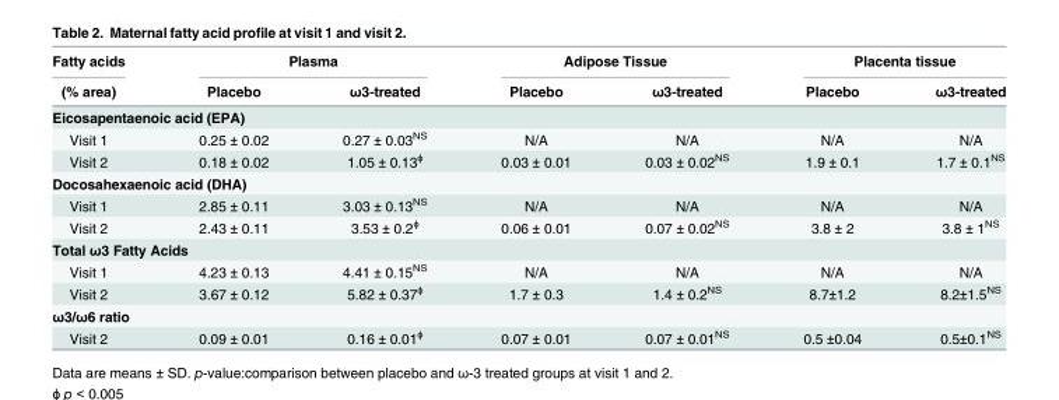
<table><thead><tr><td rowspan="2">Fatty acids (% area)</td><td colspan="2">Plasma</td><td colspan="2">Adipose Tissue</td><td colspan="2">Placenta tissue</td></tr><tr><td>Placebo</td><td>ω3-treated</td><td>Placebo</td><td>ω3-treated</td><td>Placebo</td><td>ω3-treated</td></tr></thead><tbody><tr><td colspan="7">Eicosapentaenoic acid (EPA)</td></tr><tr><td>Visit 1</td><td>0.25 ± 0.02</td><td>0.27 ± 0.03<sup>NS</sup></td><td>N/A</td><td>N/A</td><td>N/A</td><td>N/A</td></tr><tr><td>Visit 2</td><td>0.18 ± 0.02</td><td>1.05 ± 0.13<sup>ɸ</sup></td><td>0.03 ± 0.01</td><td>0.03 ± 0.02<sup>NS</sup></td><td>1.9 ± 0.1</td><td>1.7 ± 0.1<sup>NS</sup></td></tr><tr><td colspan="7">Docosahexaenoic acid (DHA)</td></tr><tr><td>Visit 1</td><td>2.85 ± 0.11</td><td>3.03 ± 0.13<sup>NS</sup></td><td>N/A</td><td>N/A</td><td>N/A</td><td>N/A</td></tr><tr><td>Visit 2</td><td>2.43 ± 0.11</td><td>3.53 ± 0.2<sup>ɸ</sup></td><td>0.06 ± 0.01</td><td>0.07 ± 0.02<sup>NS</sup></td><td>3.8 ± 2</td><td>3.8 ± 1<sup>NS</sup></td></tr><tr><td colspan="7">Total ω3 Fatty Acids</td></tr><tr><td>Visit 1</td><td>4.23 ± 0.13</td><td>4.41 ± 0.15<sup>NS</sup></td><td>N/A</td><td>N/A</td><td>N/A</td><td>N/A</td></tr><tr><td>Visit 2</td><td>3.67 ± 0.12</td><td>5.82 ± 0.37<sup>ɸ</sup></td><td>1.7 ± 0.3</td><td>1.4 ± 0.2<sup>NS</sup></td><td>8.7±1.2</td><td>8.2±1.5<sup>NS</sup></td></tr><tr><td colspan="7">ω3/ω6 ratio</td></tr><tr><td>Visit 2</td><td>0.09 ± 0.01</td><td>0.16 ± 0.01<sup>ɸ</sup></td><td>0.07 ± 0.01</td><td>0.07 ± 0.01<sup>NS</sup></td><td>0.5 ±0.04</td><td>0.5±0.1<sup>NS</sup></td></tr></tbody></table>